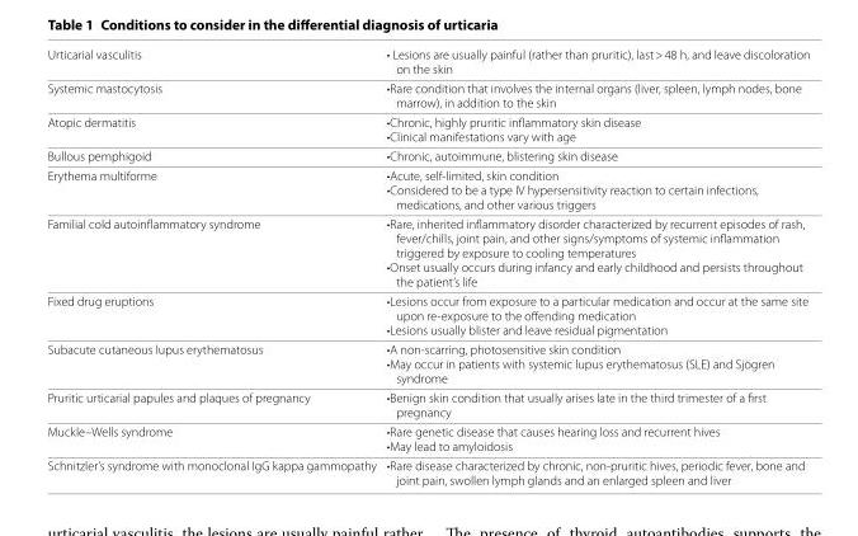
<table><tbody><tr><td>Urticarial vasculitis</td><td>• Lesions are usually painful (rather than pruritic), last &gt; 48 h, and leave discoloration on the skin</td></tr><tr><td>Systemic mastocytosis</td><td>•Rare condition that involves the internal organs (liver, spleen, lymph nodes, bone marrow), in addition to the skin</td></tr><tr><td>Atopic dermatitis</td><td>•Chronic, highly pruritic inflammatory skin disease •Clinical manifestations vary with age</td></tr><tr><td>Bullous pemphigoid</td><td>•Chronic, autoimmune, blistering skin disease</td></tr><tr><td>Erythema multiforme</td><td>•Acute, self-limited, skin condition •Considered to be a type IV hypersensitivity reaction to certain infections, medications, and other various triggers</td></tr><tr><td>Familial cold autoinflammatory syndrome</td><td>•Rare, inherited inflammatory disorder characterized by recurrent episodes of rash, fever/chills, joint pain, and other signs/symptoms of systemic inflammation triggered by exposure to cooling temperatures •Onset usually occurs during infancy and early childhood and persists throughout the patient’s life</td></tr><tr><td>Fixed drug eruptions</td><td>•Lesions occur from exposure to a particular medication and occur at the same site upon re-exposure to the offending medication •Lesions usually blister and leave residual pigmentation</td></tr><tr><td>Subacute cutaneous lupus erythematosus</td><td>•A non-scarring, photosensitive skin condition •May occur in patients with systemic lupus erythematosus (SLE) and Sjögren syndrome</td></tr><tr><td>Pruritic urticarial papules and plaques of pregnancy</td><td>•Benign skin condition that usually arises late in the third trimester of a first pregnancy</td></tr><tr><td>Muckle–Wells syndrome</td><td>•Rare genetic disease that causes hearing loss and recurrent hives •May lead to amyloidosis</td></tr><tr><td>Schnitzler’s syndrome with monoclonal IgG kappa gammopathy</td><td>•Rare disease characterized by chronic, non-pruritic hives, periodic fever, bone and joint pain, swollen lymph glands and an enlarged spleen and liver</td></tr></tbody></table>